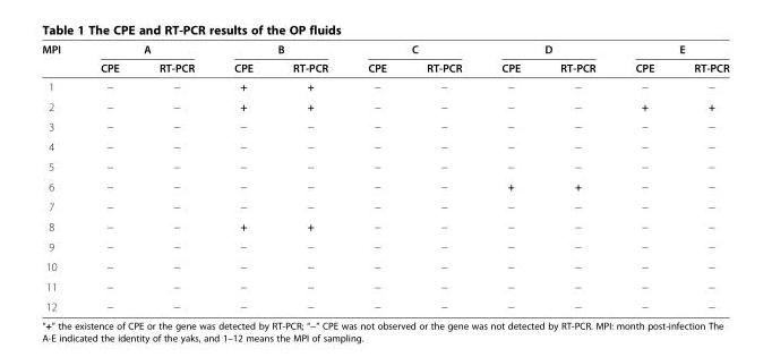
<table><thead><tr><td rowspan="2">MPI</td><td colspan="2">A</td><td colspan="2">B</td><td colspan="2">C</td><td colspan="2">D</td><td colspan="2">E</td></tr><tr><td>CPE</td><td>RT-PCR</td><td>CPE</td><td>RT-PCR</td><td>CPE</td><td>RT-PCR</td><td>CPE</td><td>RT-PCR</td><td>CPE</td><td>RT-PCR</td></tr></thead><tbody><tr><td>1</td><td>−</td><td>−</td><td>+</td><td>+</td><td>−</td><td>−</td><td>−</td><td>−</td><td>−</td><td>−</td></tr><tr><td>2</td><td>−</td><td>−</td><td>+</td><td>+</td><td>−</td><td>−</td><td>−</td><td>−</td><td>+</td><td>+</td></tr><tr><td>3</td><td>−</td><td>−</td><td>−</td><td>−</td><td>−</td><td>−</td><td>−</td><td>−</td><td>−</td><td>−</td></tr><tr><td>4</td><td>−</td><td>−</td><td>−</td><td>−</td><td>−</td><td>−</td><td>−</td><td>−</td><td>−</td><td>−</td></tr><tr><td>5</td><td>−</td><td>−</td><td>−</td><td>−</td><td>−</td><td>−</td><td>−</td><td>−</td><td>−</td><td>−</td></tr><tr><td>6</td><td>−</td><td>−</td><td>−</td><td>−</td><td>−</td><td>−</td><td>+</td><td>+</td><td>−</td><td>−</td></tr><tr><td>7</td><td>−</td><td>−</td><td>−</td><td>−</td><td>−</td><td>−</td><td>−</td><td>−</td><td>−</td><td>−</td></tr><tr><td>8</td><td>−</td><td>−</td><td>+</td><td>+</td><td>−</td><td>−</td><td>−</td><td>−</td><td>−</td><td>−</td></tr><tr><td>9</td><td>−</td><td>−</td><td>−</td><td>−</td><td>−</td><td>−</td><td>−</td><td>−</td><td>−</td><td>−</td></tr><tr><td>10</td><td>−</td><td>−</td><td>−</td><td>−</td><td>−</td><td>−</td><td>−</td><td>−</td><td>−</td><td>−</td></tr><tr><td>11</td><td>−</td><td>−</td><td>−</td><td>−</td><td>−</td><td>−</td><td>−</td><td>−</td><td>−</td><td>−</td></tr><tr><td>12</td><td>−</td><td>−</td><td>−</td><td>−</td><td>−</td><td>−</td><td>−</td><td>−</td><td>−</td><td>−</td></tr></tbody></table>